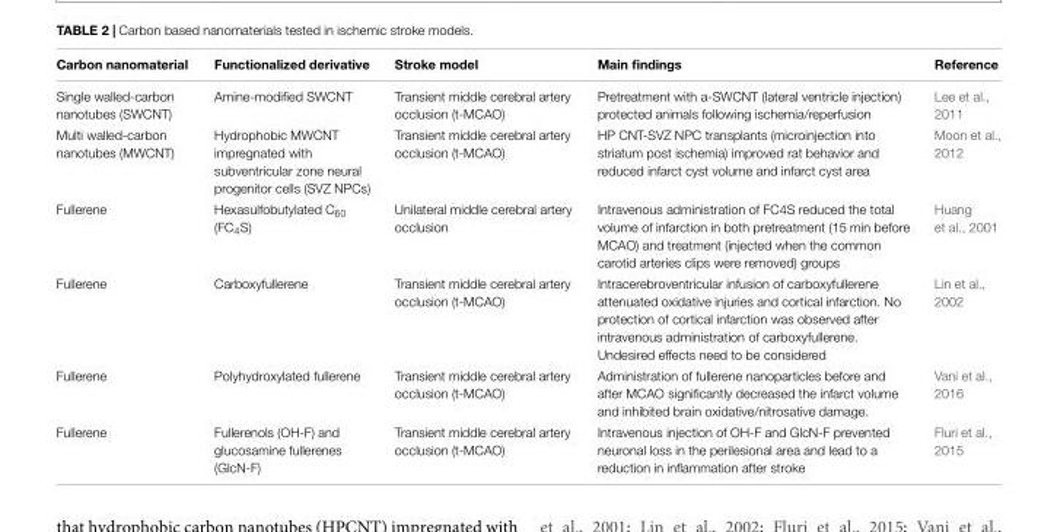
<table><thead><tr><td>Carbon nanomaterial</td><td>Functionalized derivative</td><td>Stroke model</td><td>Main findings</td><td>Reference</td></tr></thead><tbody><tr><td>Single walled-carbon nanotubes (SWCNT)</td><td>Amine-modified SWCNT</td><td>Transient middle cerebral artery occlusion (t-MCAO)</td><td>Pretreatment with a-SWCNT (lateral ventricle injection) protected animals following ischemia/reperfusion</td><td>Lee et al., 2011</td></tr><tr><td>Multi walled-carbon nanotubes (MWCNT)</td><td>Hydrophobic MWCNT impregnated with subventricular zone neural progenitor cells (SVZ NPCs)</td><td>Transient middle cerebral artery occlusion (t-MCAO)</td><td>HP CNT-SVZ NPC transplants (microinjection into striatum post ischemia) improved rat behavior and reduced infarct cyst volume and infarct cyst area</td><td>Moon et al., 2012</td></tr><tr><td>Fullerene</td><td>Hexasulfobutylated C<sub>60</sub> (FC<sub>4</sub>S)</td><td>Unilateral middle cerebral artery occlusion</td><td>Intravenous administration of FC4S reduced the total volume of infarction in both pretreatment (15 min before MCAO) and treatment (injected when the common carotid arteries clips were removed) groups</td><td>Huang et al., 2001</td></tr><tr><td>Fullerene</td><td>Carboxyfullerene</td><td>Transient middle cerebral artery occlusion (t-MCAO)</td><td>Intracerebroventricular infusion of carboxyfullerene attenuated oxidative injuries and cortical infarction. No protection of cortical infarction was observed after intravenous administration of carboxyfullerene. Undesired effects need to be considered</td><td>Lin et al., 2002</td></tr><tr><td>Fullerene</td><td>Polyhydroxylated fullerene</td><td>Transient middle cerebral artery occlusion (t-MCAO)</td><td>Administration of fullerene nanoparticles before and after MCAO significantly decreased the infarct volume and inhibited brain oxidative/nitrosative damage.</td><td>Vani et al., 2016</td></tr><tr><td>Fullerene</td><td>Fullerenols (OH-F) and glucosamine fullerenes (GlcN-F)</td><td>Transient middle cerebral artery occlusion (t-MCAO)</td><td>Intravenous injection of OH-F and GlcN-F prevented neuronal loss in the perilesional area and lead to a reduction in inflammation after stroke</td><td>Fluri et al., 2015</td></tr></tbody></table>